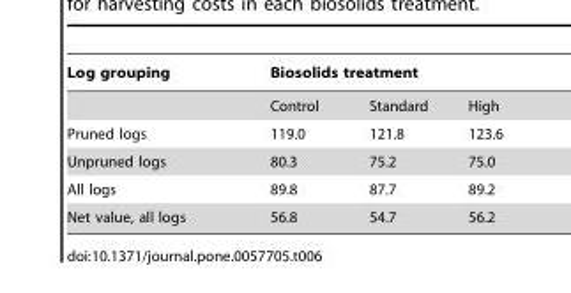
<table><thead><tr><td rowspan="2">Log grouping</td><td colspan="3">Biosolids treatment</td></tr><tr><td>Control</td><td>Standard</td><td>High</td></tr></thead><tbody><tr><td>Pruned logs</td><td>119.0</td><td>121.8</td><td>123.6</td></tr><tr><td>Unpruned logs</td><td>80.3</td><td>75.2</td><td>75.0</td></tr><tr><td>All logs</td><td>89.8</td><td>87.7</td><td>89.2</td></tr><tr><td>Net value, all logs</td><td>56.8</td><td>54.7</td><td>56.2</td></tr></tbody></table>